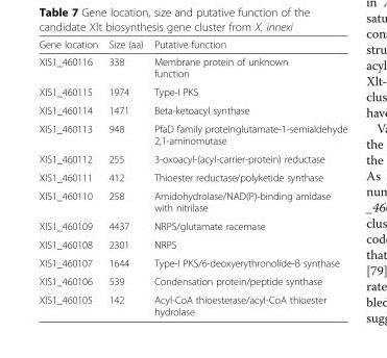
<table><thead><tr><td>Gene location</td><td>Size (aa)</td><td>Putative function</td></tr></thead><tbody><tr><td>XIS1_460116</td><td>338</td><td>Membrane protein of unknown function</td></tr><tr><td>XIS1_460115</td><td>1974</td><td>Type-I PKS</td></tr><tr><td>XIS1_460114</td><td>1471</td><td>Beta-ketoacyl synthase</td></tr><tr><td>XIS1_460113</td><td>948</td><td>PfaD family proteinglutamate-1-semialdehyde 2,1-aminomutase</td></tr><tr><td>XIS1_460112</td><td>255</td><td>3-oxoacyl-(acyl-carrier-protein) reductase</td></tr><tr><td>XIS1_460111</td><td>412</td><td>Thioester reductase/polyketide synthase</td></tr><tr><td>XIS1_460110</td><td>258</td><td>Amidohydrolase/NAD(P)-binding amidase with nitrilase</td></tr><tr><td>XIS1_460109</td><td>4437</td><td>NRPS/glutamate racemase</td></tr><tr><td>XIS1_460108</td><td>2301</td><td>NRPS</td></tr><tr><td>XIS1_460107</td><td>1644</td><td>Type-I PKS/6-deoxyerythronolide-B synthase</td></tr><tr><td>XIS1_460106</td><td>539</td><td>Condensation protein/peptide synthase</td></tr><tr><td>XIS1_460105</td><td>142</td><td>Acyl-CoA thioesterase/acyl-CoA thioester hydrolase</td></tr></tbody></table>